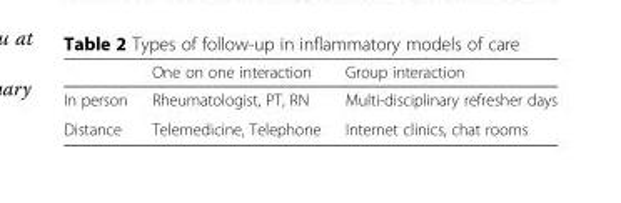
<table><thead><tr><td></td><td>One on one interaction</td><td>Group interaction</td></tr></thead><tbody><tr><td>In person</td><td>Rheumatologist, PT, RN</td><td>Multi-disciplinary refresher days</td></tr><tr><td>Distance</td><td>Telemedicine, Telephone</td><td>Internet clinics, chat rooms</td></tr></tbody></table>